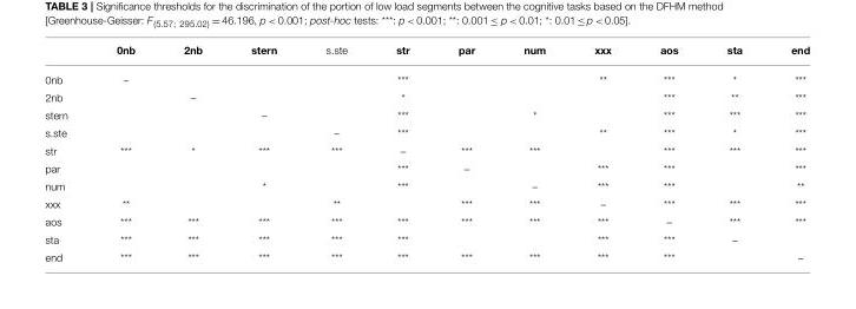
<table><thead><tr><td></td><td>0nb</td><td>2nb</td><td>stern</td><td>s.ste</td><td>str</td><td>par</td><td>num</td><td>xxx</td><td>aos</td><td>sta</td><td>end</td></tr></thead><tbody><tr><td>0nb</td><td>–</td><td></td><td></td><td></td><td>***</td><td></td><td></td><td>**</td><td>***</td><td>*</td><td>***</td></tr><tr><td>2nb</td><td></td><td>–</td><td></td><td></td><td>*</td><td></td><td></td><td></td><td>***</td><td>**</td><td>***</td></tr><tr><td>stern</td><td></td><td></td><td>–</td><td></td><td>***</td><td></td><td>*</td><td></td><td>***</td><td>***</td><td>***</td></tr><tr><td>s.ste</td><td></td><td></td><td></td><td>–</td><td>***</td><td></td><td></td><td>**</td><td>***</td><td>*</td><td>***</td></tr><tr><td>str</td><td>***</td><td>*</td><td>***</td><td>***</td><td>–</td><td>***</td><td>***</td><td></td><td>***</td><td>***</td><td>***</td></tr><tr><td>par</td><td></td><td></td><td></td><td></td><td>***</td><td>–</td><td></td><td>***</td><td>***</td><td></td><td>***</td></tr><tr><td>num</td><td></td><td></td><td>*</td><td></td><td>***</td><td></td><td>–</td><td>***</td><td>***</td><td></td><td>**</td></tr><tr><td>xxx</td><td>**</td><td></td><td></td><td>**</td><td></td><td>***</td><td>***</td><td>–</td><td>***</td><td>***</td><td>***</td></tr><tr><td>aos</td><td>***</td><td>***</td><td>***</td><td>***</td><td>***</td><td>***</td><td>***</td><td>***</td><td>–</td><td>***</td><td>***</td></tr><tr><td>sta</td><td>***</td><td>***</td><td>***</td><td>***</td><td>***</td><td></td><td></td><td>***</td><td>***</td><td>–</td><td></td></tr><tr><td>end</td><td>***</td><td>***</td><td>***</td><td>***</td><td>***</td><td>***</td><td>***</td><td>***</td><td>***</td><td></td><td>–</td></tr></tbody></table>